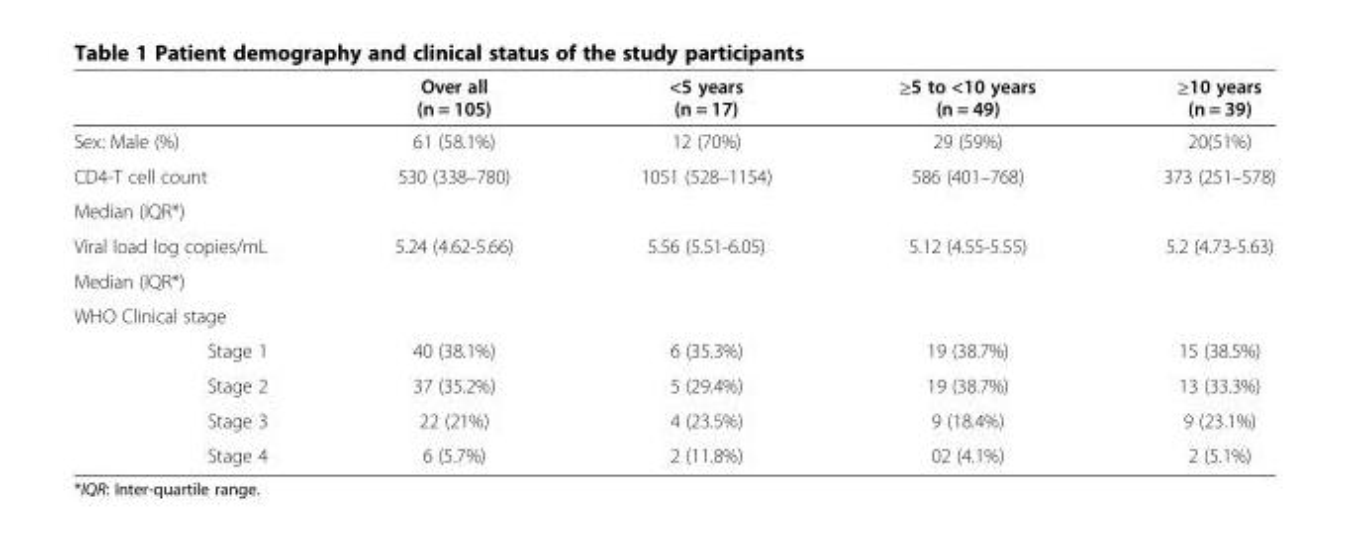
<table><thead><tr><td></td><td>Over all (n = 105)</td><td>&lt;5 years (n = 17)</td><td>≥5 to &lt;10 years (n = 49)</td><td>≥10 years (n = 39)</td></tr></thead><tbody><tr><td>Sex: Male (%)</td><td>61 (58.1%)</td><td>12 (70%)</td><td>29 (59%)</td><td>20(51%)</td></tr><tr><td>CD4-T cell count</td><td rowspan="2">530 (338–780)</td><td rowspan="2">1051 (528–1154)</td><td rowspan="2">586 (401–768)</td><td rowspan="2">373 (251–578)</td></tr><tr><td>Median (IQR*)</td></tr><tr><td>Viral load log copies/mL</td><td rowspan="2">5.24 (4.62-5.66)</td><td rowspan="2">5.56 (5.51-6.05)</td><td rowspan="2">5.12 (4.55-5.55)</td><td rowspan="2">5.2 (4.73-5.63)</td></tr><tr><td>Median (IQR*)</td></tr><tr><td colspan="5">WHO Clinical stage</td></tr><tr><td>Stage 1</td><td>40 (38.1%)</td><td>6 (35.3%)</td><td>19 (38.7%)</td><td>15 (38.5%)</td></tr><tr><td>Stage 2</td><td>37 (35.2%)</td><td>5 (29.4%)</td><td>19 (38.7%)</td><td>13 (33.3%)</td></tr><tr><td>Stage 3</td><td>22 (21%)</td><td>4 (23.5%)</td><td>9 (18.4%)</td><td>9 (23.1%)</td></tr><tr><td>Stage 4</td><td>6 (5.7%)</td><td>2 (11.8%)</td><td>02 (4.1%)</td><td>2 (5.1%)</td></tr></tbody></table>